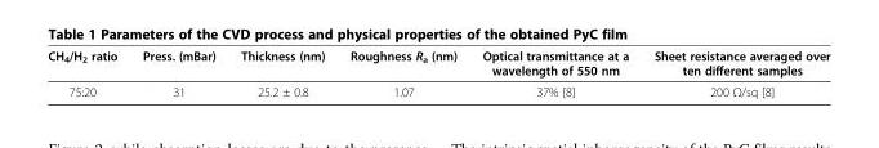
<table><thead><tr><td>CH<sub>4</sub>/H<sub>2</sub> ratio</td><td>Press. (mBar)</td><td>Thickness (nm)</td><td>Roughness R<sub>a</sub> (nm)</td><td>Optical transmittance at a wavelength of 550 nm</td><td>Sheet resistance averaged over ten different samples</td></tr></thead><tbody><tr><td>75:20</td><td>31</td><td>25.2 ± 0.8</td><td>1.07</td><td>37% [8]</td><td>200 Ω/sq [8]</td></tr></tbody></table>